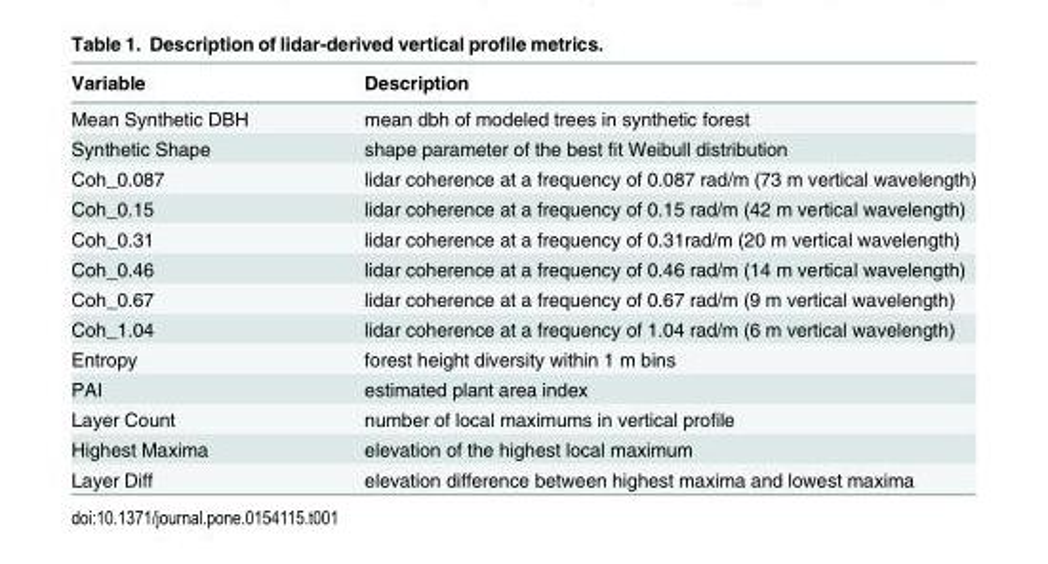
<table><thead><tr><td>Variable</td><td>Description</td></tr></thead><tbody><tr><td>Mean Synthetic DBH</td><td>mean dbh of modeled trees in synthetic forest</td></tr><tr><td>Synthetic Shape</td><td>shape parameter of the best fit Weibull distribution</td></tr><tr><td>Coh_0.087</td><td>lidar coherence at a frequency of 0.087 rad/m (73 m vertical wavelength)</td></tr><tr><td>Coh_0.15</td><td>lidar coherence at a frequency of 0.15 rad/m (42 m vertical wavelength)</td></tr><tr><td>Coh_0.31</td><td>lidar coherence at a frequency of 0.31rad/m (20 m vertical wavelength)</td></tr><tr><td>Coh_0.46</td><td>lidar coherence at a frequency of 0.46 rad/m (14 m vertical wavelength)</td></tr><tr><td>Coh_0.67</td><td>lidar coherence at a frequency of 0.67 rad/m (9 m vertical wavelength)</td></tr><tr><td>Coh_1.04</td><td>lidar coherence at a frequency of 1.04 rad/m (6 m vertical wavelength)</td></tr><tr><td>Entropy</td><td>forest height diversity within 1 m bins</td></tr><tr><td>PAI</td><td>estimated plant area index</td></tr><tr><td>Layer Count</td><td>number of local maximums in vertical profile</td></tr><tr><td>Highest Maxima</td><td>elevation of the highest local maximum</td></tr><tr><td>Layer Diff</td><td>elevation difference between highest maxima and lowest maxima</td></tr></tbody></table>